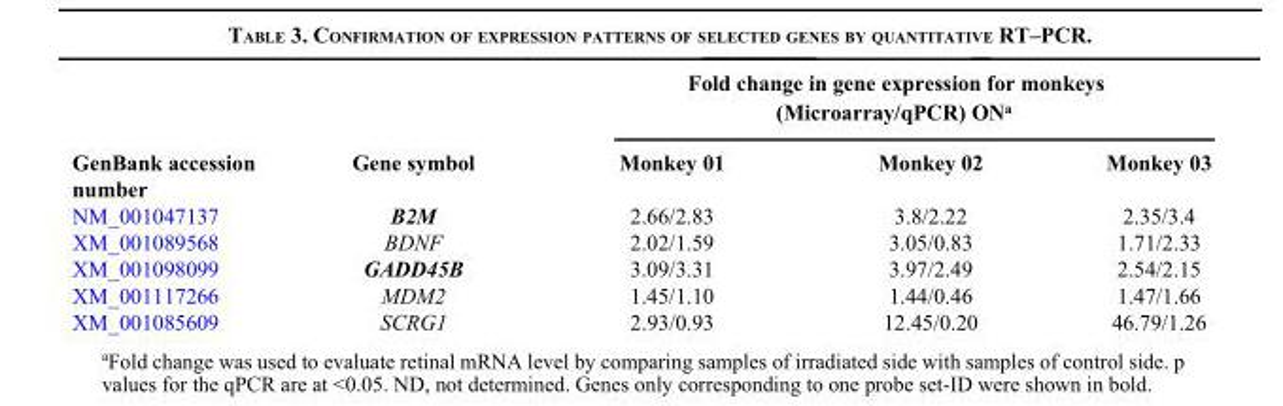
<table><thead><tr><td rowspan="2">GenBank accession number</td><td rowspan="2">Gene symbol</td><td colspan="3">Fold change in gene expression for monkeys (Microarray/qPCR) ON<sup>a</sup></td></tr><tr><td>Monkey 01</td><td>Monkey 02</td><td>Monkey 03</td></tr></thead><tbody><tr><td>NM_001047137</td><td>B2M</td><td>2.66/2.83</td><td>3.8/2.22</td><td>2.35/3.4</td></tr><tr><td>XM_001089568</td><td>BDNF</td><td>2.02/1.59</td><td>3.05/0.83</td><td>1.71/2.33</td></tr><tr><td>XM_001098099</td><td>GADD45B</td><td>3.09/3.31</td><td>3.97/2.49</td><td>2.54/2.15</td></tr><tr><td>XM_001117266</td><td>MDM2</td><td>1.45/1.10</td><td>1.44/0.46</td><td>1.47/1.66</td></tr><tr><td>XM_001085609</td><td>SCRG1</td><td>2.93/0.93</td><td>12.45/0.20</td><td>46.79/1.26</td></tr></tbody></table>